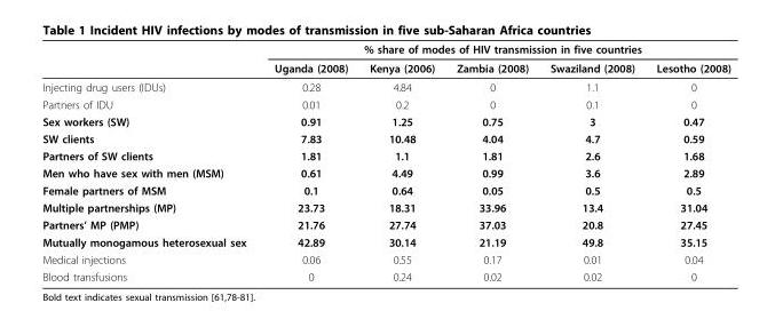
<table><thead><tr><td rowspan="2"></td><td colspan="5">% share of modes of HIV transmission in five countries</td></tr><tr><td>Uganda (2008)</td><td>Kenya (2006)</td><td>Zambia (2008)</td><td>Swaziland (2008)</td><td>Lesotho (2008)</td></tr></thead><tbody><tr><td>Injecting drug users (IDUs)</td><td>0.28</td><td>4.84</td><td>0</td><td>1.1</td><td>0</td></tr><tr><td>Partners of IDU</td><td>0.01</td><td>0.2</td><td>0</td><td>0.1</td><td>0</td></tr><tr><td>Sex workers (SW)</td><td>0.91</td><td>1.25</td><td>0.75</td><td>3</td><td>0.47</td></tr><tr><td>SW clients</td><td>7.83</td><td>10.48</td><td>4.04</td><td>4.7</td><td>0.59</td></tr><tr><td>Partners of SW clients</td><td>1.81</td><td>1.1</td><td>1.81</td><td>2.6</td><td>1.68</td></tr><tr><td>Men who have sex with men (MSM)</td><td>0.61</td><td>4.49</td><td>0.99</td><td>3.6</td><td>2.89</td></tr><tr><td>Female partners of MSM</td><td>0.1</td><td>0.64</td><td>0.05</td><td>0.5</td><td>0.5</td></tr><tr><td>Multiple partnerships (MP)</td><td>23.73</td><td>18.31</td><td>33.96</td><td>13.4</td><td>31.04</td></tr><tr><td>Partners’ MP (PMP)</td><td>21.76</td><td>27.74</td><td>37.03</td><td>20.8</td><td>27.45</td></tr><tr><td>Mutually monogamous heterosexual sex</td><td>42.89</td><td>30.14</td><td>21.19</td><td>49.8</td><td>35.15</td></tr><tr><td>Medical injections</td><td>0.06</td><td>0.55</td><td>0.17</td><td>0.01</td><td>0.04</td></tr><tr><td>Blood transfusions</td><td>0</td><td>0.24</td><td>0.02</td><td>0.02</td><td>0</td></tr></tbody></table>